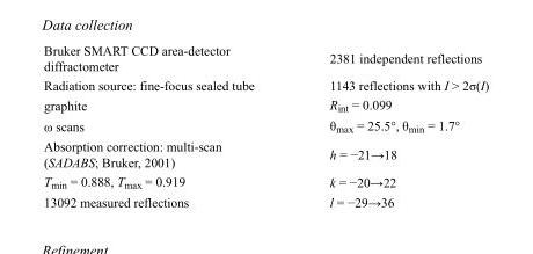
<table><tbody><tr><td>Bruker SMART CCD area-detector diffractometer</td><td>2381 independent reflections</td></tr><tr><td>Radiation source: fine-focus sealed tube</td><td>1143 reflections with I &gt; 2σ(I)</td></tr><tr><td>graphite</td><td>R<sub>int</sub> = 0.099</td></tr><tr><td>ω scans</td><td>θ<sub>max</sub> = 25.5°, θ<sub>min</sub> = 1.7°</td></tr><tr><td>Absorption correction: multi-scan (SADABS; Bruker, 2001)</td><td>h = −21→18</td></tr><tr><td>T<sub>min</sub> = 0.888, T<sub>max</sub> = 0.919</td><td>k = −20→22</td></tr><tr><td>13092 measured reflections</td><td>l = −29→36</td></tr></tbody></table>